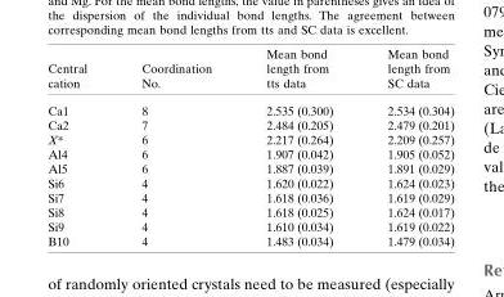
<table><thead><tr><td>Central cation</td><td>Coordination No.</td><td>Mean bond length from tts data</td><td>Mean bond length from SC data</td></tr></thead><tbody><tr><td>Ca1</td><td>8</td><td>2.535 (0.300)</td><td>2.534 (0.304)</td></tr><tr><td>Ca2</td><td>7</td><td>2.484 (0.205)</td><td>2.479 (0.201)</td></tr><tr><td>X*</td><td>6</td><td>2.217 (0.264)</td><td>2.209 (0.257)</td></tr><tr><td>Al4</td><td>6</td><td>1.907 (0.042)</td><td>1.905 (0.052)</td></tr><tr><td>Al5</td><td>6</td><td>1.887 (0.039)</td><td>1.891 (0.029)</td></tr><tr><td>Si6</td><td>4</td><td>1.620 (0.022)</td><td>1.624 (0.023)</td></tr><tr><td>Si7</td><td>4</td><td>1.618 (0.036)</td><td>1.619 (0.029)</td></tr><tr><td>Si8</td><td>4</td><td>1.618 (0.025)</td><td>1.624 (0.017)</td></tr><tr><td>Si9</td><td>4</td><td>1.610 (0.034)</td><td>1.619 (0.022)</td></tr><tr><td>B10</td><td>4</td><td>1.483 (0.034)</td><td>1.479 (0.034)</td></tr></tbody></table>